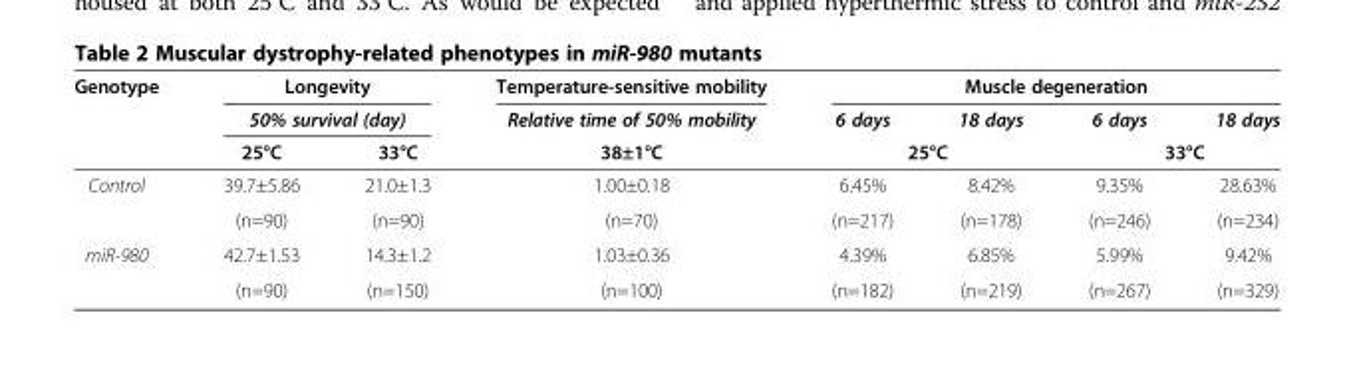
<table><thead><tr><td rowspan="3">Genotype</td><td rowspan="2" colspan="2">Longevity 50% survival (day)</td><td rowspan="3">Temperature-sensitive mobility Relative time of 50% mobility 38±1°C</td><td colspan="4">Muscle degeneration</td></tr><tr><td>6 days</td><td>18 days</td><td>6 days</td><td>18 days</td></tr><tr><td>25°C</td><td>33°C</td><td colspan="2">25°C</td><td colspan="2">33°C</td></tr></thead><tbody><tr><td rowspan="2">Control</td><td>39.7±5.86</td><td>21.0±1.3</td><td>1.00±0.18</td><td>6.45%</td><td>8.42%</td><td>9.35%</td><td>28.63%</td></tr><tr><td>(n=90)</td><td>(n=90)</td><td>(n=70)</td><td>(n=217)</td><td>(n=178)</td><td>(n=246)</td><td>(n=234)</td></tr><tr><td rowspan="2">miR-980</td><td>42.7±1.53</td><td>14.3±1.2</td><td>1.03±0.36</td><td>4.39%</td><td>6.85%</td><td>5.99%</td><td>9.42%</td></tr><tr><td>(n=90)</td><td>(n=150)</td><td>(n=100)</td><td>(n=182)</td><td>(n=219)</td><td>(n=267)</td><td>(n=329)</td></tr></tbody></table>